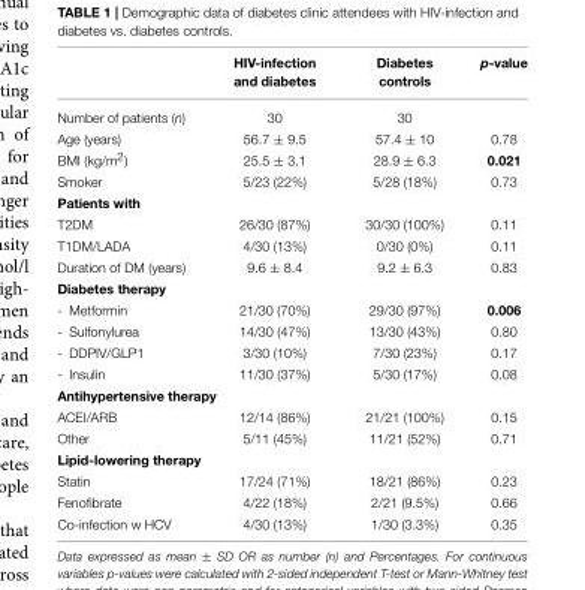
<table><thead><tr><td></td><td>HIV-infection and diabetes</td><td>Diabetes controls</td><td>p-value</td></tr></thead><tbody><tr><td>Number of patients (n)</td><td>30</td><td>30</td><td></td></tr><tr><td>Age (years)</td><td>56.7 ± 9.5</td><td>57.4 ± 10</td><td>0.78</td></tr><tr><td>BMI (kg/m<sup>2</sup>)</td><td>25.5 ± 3.1</td><td>28.9 ± 6.3</td><td>0.021</td></tr><tr><td>Smoker</td><td>5/23 (22%)</td><td>5/28 (18%)</td><td>0.73</td></tr><tr><td colspan="4">Patients with</td></tr><tr><td>T2DM</td><td>26/30 (87%)</td><td>30/30 (100%)</td><td>0.11</td></tr><tr><td>T1DM/LADA</td><td>4/30 (13%)</td><td>0/30 (0%)</td><td>0.11</td></tr><tr><td>Duration of DM (years)</td><td>9.6 ± 8.4</td><td>9.2 ± 6.3</td><td>0.83</td></tr><tr><td colspan="4">Diabetes therapy</td></tr><tr><td>- Metformin</td><td>21/30 (70%)</td><td>29/30 (97%)</td><td>0.006</td></tr><tr><td>- Sulfonylurea</td><td>14/30 (47%)</td><td>13/30 (43%)</td><td>0.80</td></tr><tr><td>- DDPIV/GLP1</td><td>3/30 (10%)</td><td>7/30 (23%)</td><td>0.17</td></tr><tr><td>- Insulin</td><td>11/30 (37%)</td><td>5/30 (17%)</td><td>0.08</td></tr><tr><td colspan="4">Antihypertensive therapy</td></tr><tr><td>ACEI/ARB</td><td>12/14 (86%)</td><td>21/21 (100%)</td><td>0.15</td></tr><tr><td>Other</td><td>5/11 (45%)</td><td>11/21 (52%)</td><td>0.71</td></tr><tr><td colspan="4">Lipid-lowering therapy</td></tr><tr><td>Statin</td><td>17/24 (71%)</td><td>18/21 (86%)</td><td>0.23</td></tr><tr><td>Fenofibrate</td><td>4/22 (18%)</td><td>2/21 (9.5%)</td><td>0.66</td></tr><tr><td>Co-infection w HCV</td><td>4/30 (13%)</td><td>1/30 (3.3%)</td><td>0.35</td></tr></tbody></table>